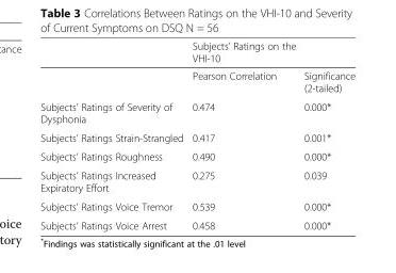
<table><thead><tr><td></td><td>Subjects’ Ratings on the VHI-10</td><td></td></tr></thead><tbody><tr><td></td><td>Pearson Correlation</td><td>Significance (2-tailed)</td></tr><tr><td>Subjects’ Ratings of Severity of Dysphonia</td><td>0.474</td><td>0.000*</td></tr><tr><td>Subjects’ Ratings Strain-Strangled</td><td>0.417</td><td>0.001*</td></tr><tr><td>Subjects’ Ratings Roughness</td><td>0.490</td><td>0.000*</td></tr><tr><td>Subjects’ Ratings Increased Expiratory Effort</td><td>0.275</td><td>0.039</td></tr><tr><td>Subjects’ Ratings Voice Tremor</td><td>0.539</td><td>0.000*</td></tr><tr><td>Subjects’ Ratings Voice Arrest</td><td>0.458</td><td>0.000*</td></tr></tbody></table>